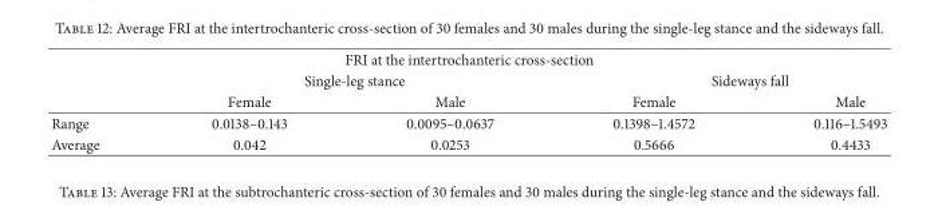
<table><thead><tr><td colspan="5">FRI at the intertrochanteric cross-section</td></tr><tr><td rowspan="2"></td><td colspan="2">Single-leg stance</td><td colspan="2">Sideways fall</td></tr><tr><td>Female</td><td>Male</td><td>Female</td><td>Male</td></tr></thead><tbody><tr><td>Range</td><td>0.0138–0.143</td><td>0.0095–0.0637</td><td>0.1398–1.4572</td><td>0.116–1.5493</td></tr><tr><td>Average</td><td>0.042</td><td>0.0253</td><td>0.5666</td><td>0.4433</td></tr></tbody></table>